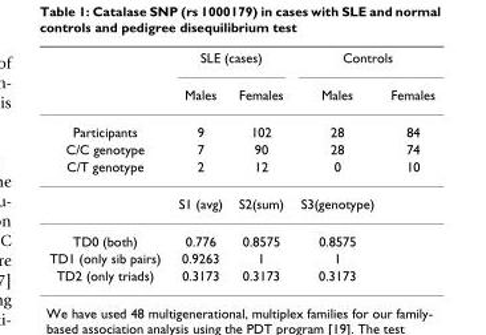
<table><thead><tr><td rowspan="2"></td><td colspan="2">SLE (cases)</td><td colspan="2">Controls</td></tr><tr><td>Males</td><td>Females</td><td>Males</td><td>Females</td></tr></thead><tbody><tr><td>Participants</td><td>9</td><td>102</td><td>28</td><td>84</td></tr><tr><td>C/C genotype</td><td>7</td><td>90</td><td>28</td><td>74</td></tr><tr><td rowspan="2">C/T genotype</td><td>2</td><td>12</td><td>0</td><td>10</td></tr><tr><td>S1 (avg)</td><td>S2(sum)</td><td>S3(genotype)</td><td></td></tr><tr><td>TD0 (both)</td><td>0.776</td><td>0.8575</td><td>0.8575</td><td></td></tr><tr><td>TD1 (only sib pairs)</td><td>0.9263</td><td>1</td><td>1</td><td></td></tr><tr><td>TD2 (only triads)</td><td>0.3173</td><td>0.3173</td><td>0.3173</td><td></td></tr></tbody></table>